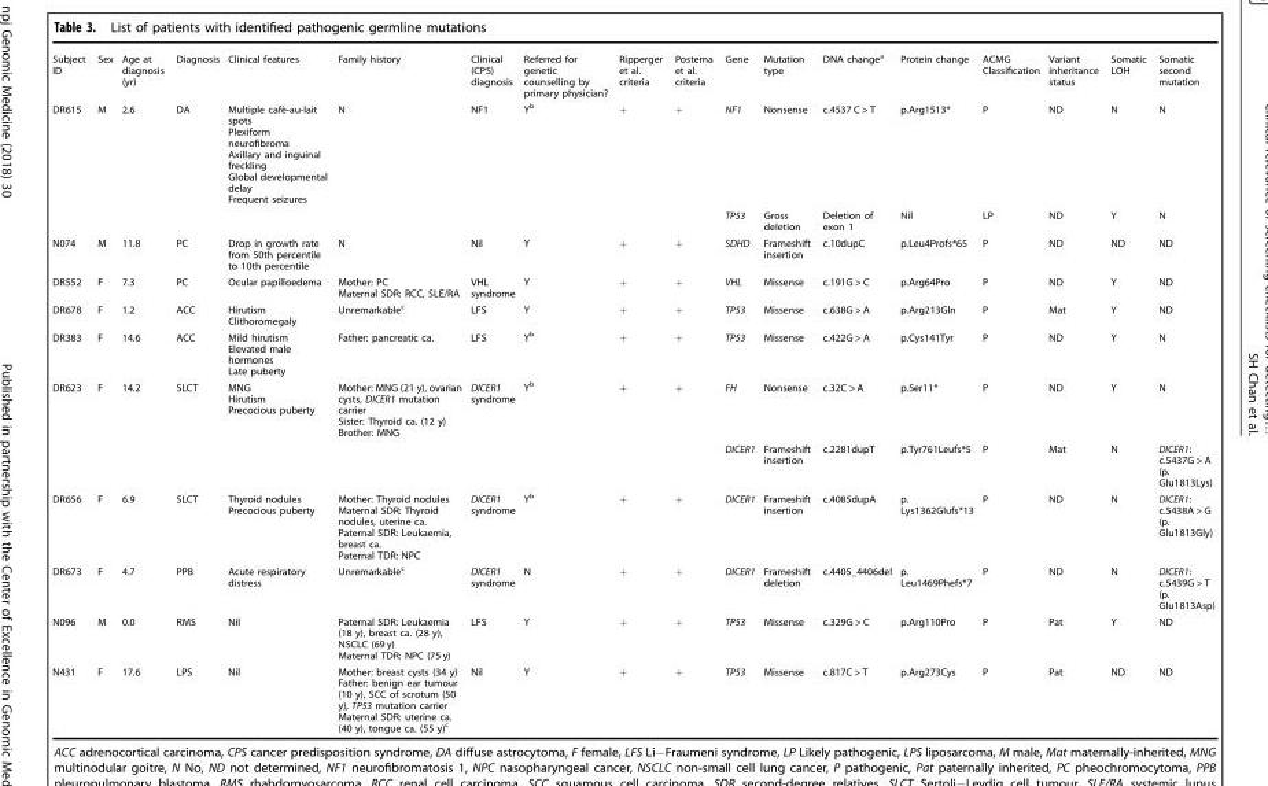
<table><tbody><tr><td>Subject ID</td><td>Sex</td><td>Age at diagnosis (yr)</td><td>Diagnosis</td><td>Clinical features</td><td>Family history</td><td>Clinical (CPS) diagnosis</td><td>Referred for genetic counselling by primary physician?</td><td>Ripperger et al. criteria</td><td>Postema et al. criteria</td><td>Gene</td><td>Mutation type</td><td>DNA change<sup>a</sup></td><td>Protein change</td><td>ACMG Classification</td><td>Variant inheritance status</td><td>Somatic LOH</td><td>Somatic second mutation</td></tr><tr><td rowspan="2">DR615</td><td>M</td><td>2.6</td><td>DA</td><td>Multiple café-au-lait spots Plexiform neurofibroma Axillary and inguinal freckling Global developmental delay Frequent seizures</td><td>N</td><td>NF1</td><td>Y<sup>b</sup></td><td>+</td><td>+</td><td>NF1</td><td>Nonsense</td><td>c.4537 C &gt; T</td><td>p.Arg1513*</td><td>P</td><td>ND</td><td>N</td><td>N</td></tr><tr><td></td><td></td><td></td><td></td><td></td><td></td><td></td><td></td><td></td><td>TP53</td><td>Gross deletion</td><td>Deletion of exon 1</td><td>Nil</td><td>LP</td><td>ND</td><td>Y</td><td>N</td></tr><tr><td>N074</td><td>M</td><td>11.8</td><td>PC</td><td>Drop in growth rate from 50th percentile to 10th percentile</td><td>N</td><td>Nil</td><td>Y</td><td>+</td><td>+</td><td>SDHD</td><td>Frameshift insertion</td><td>c.10dupC</td><td>p.Leu4Profs*65</td><td>P</td><td>ND</td><td>ND</td><td>ND</td></tr><tr><td>DR552</td><td>F</td><td>7.3</td><td>PC</td><td>Ocular papilloedema</td><td>Mother: PC Maternal SDR: RCC, SLE/RA</td><td>VHL syndrome</td><td>Y</td><td>+</td><td>+</td><td>VHL</td><td>Missense</td><td>c.191G &gt; C</td><td>p.Arg64Pro</td><td>P</td><td>ND</td><td>Y</td><td>ND</td></tr><tr><td>DR678</td><td>F</td><td>1.2</td><td>ACC</td><td>Hirutism Clithoromegaly</td><td>Unremarkable<sup>c</sup></td><td>LFS</td><td>Y</td><td>+</td><td>+</td><td>TP53</td><td>Missense</td><td>c.638G &gt; A</td><td>p.Arg213Gln</td><td>P</td><td>Mat</td><td>Y</td><td>ND</td></tr><tr><td>DR383</td><td>F</td><td>14.6</td><td>ACC</td><td>Mild hirutism Elevated male hormones Late puberty</td><td>Father: pancreatic ca.</td><td>LFS</td><td>Y<sup>b</sup></td><td>+</td><td>+</td><td>TP53</td><td>Missense</td><td>c.422G &gt; A</td><td>p.Cys141Tyr</td><td>P</td><td>ND</td><td>Y</td><td>N</td></tr><tr><td rowspan="2">DR623</td><td>F</td><td>14.2</td><td>SLCT</td><td>MNG Hirutism Precocious puberty</td><td>Mother: MNG (21 y), ovarian cysts, DICER1 mutation carrier Sister: Thyroid ca. (12 y) Brother: MNG</td><td>DICER1 syndrome</td><td>Y<sup>b</sup></td><td>+</td><td>+</td><td>FH</td><td>Nonsense</td><td>c.32C &gt; A</td><td>p.Ser11*</td><td>P</td><td>ND</td><td>Y</td><td>N</td></tr><tr><td></td><td></td><td></td><td></td><td></td><td></td><td></td><td></td><td></td><td>DICER1</td><td>Frameshift insertion</td><td>c.2281dupT</td><td>p.Tyr761Leufs*5</td><td>P</td><td>Mat</td><td>N</td><td>DICER1: c.5437G &gt; A (p. Glu1813Lys)</td></tr><tr><td>DR656</td><td>F</td><td>6.9</td><td>SLCT</td><td>Thyroid nodules Precocious puberty</td><td>Mother: Thyroid nodules Maternal SDR: Thyroid nodules, uterine ca. Paternal SDR: Leukaemia, breast ca. Paternal TDR: NPC</td><td>DICER1 syndrome</td><td>Y<sup>b</sup></td><td>+</td><td>+</td><td>DICER1</td><td>Frameshift insertion</td><td>c.4085dupA</td><td>p. Lys1362Glufs*13</td><td>P</td><td>ND</td><td>N</td><td>DICER1: c.5438A &gt; G (p. Glu1813Gly)</td></tr><tr><td>DR673</td><td>F</td><td>4.7</td><td>PPB</td><td>Acute respiratory distress</td><td>Unremarkable<sup>c</sup></td><td>DICER1 syndrome</td><td>N</td><td>+</td><td>+</td><td>DICER1</td><td>Frameshift deletion</td><td>c.4405_4406del</td><td>p. Leu1469Phefs*7</td><td>P</td><td>ND</td><td>N</td><td>DICER1: c.5439G &gt; T (p. Glu1813Asp)</td></tr><tr><td>N096</td><td>M</td><td>0.0</td><td>RMS</td><td>Nil</td><td>Paternal SDR: Leukaemia (18 y), breast ca. (28 y), NSCLC (69 y) Maternal TDR: NPC (75 y)</td><td>LFS</td><td>Y</td><td>+</td><td>+</td><td>TP53</td><td>Missense</td><td>c.329G &gt; C</td><td>p.Arg110Pro</td><td>P</td><td>Pat</td><td>Y</td><td>ND</td></tr><tr><td>N431</td><td>F</td><td>17.6</td><td>LPS</td><td>Nil</td><td>Mother: breast cysts (34 y) Father: benign ear tumour (10 y), SCC of scrotum (50 y), TP53 mutation carrier Maternal SDR: uterine ca. (40 y), tongue ca. (55 y)<sup>c</sup></td><td>Nil</td><td>Y</td><td>+</td><td>+</td><td>TP53</td><td>Missense</td><td>c.817C &gt; T</td><td>p.Arg273Cys</td><td>P</td><td>Pat</td><td>ND</td><td>ND</td></tr></tbody></table>